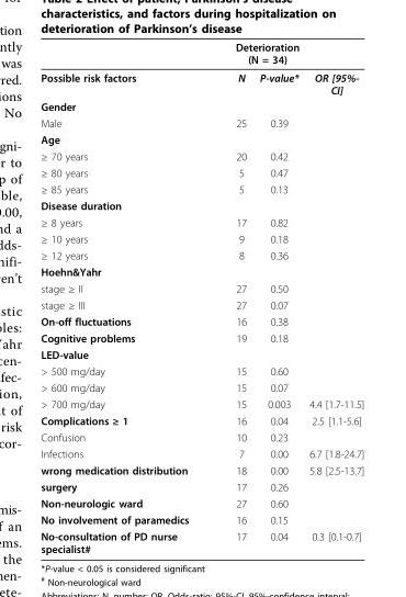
<table><thead><tr><td rowspan="2">Possible risk factors</td><td colspan="2">Deterioration (N = 34)</td><td rowspan="2">OR [95%- CI]</td></tr><tr><td>N</td><td>P-value*</td></tr></thead><tbody><tr><td colspan="4">Gender</td></tr><tr><td>Male</td><td>25</td><td>0.39</td><td></td></tr><tr><td colspan="4">Age</td></tr><tr><td>≥ 70 years</td><td>20</td><td>0.42</td><td></td></tr><tr><td>≥ 80 years</td><td>5</td><td>0.47</td><td></td></tr><tr><td>≥ 85 years</td><td>5</td><td>0.13</td><td></td></tr><tr><td colspan="4">Disease duration</td></tr><tr><td>≥ 8 years</td><td>17</td><td>0.82</td><td></td></tr><tr><td>≥ 10 years</td><td>9</td><td>0.18</td><td></td></tr><tr><td>≥ 12 years</td><td>8</td><td>0.36</td><td></td></tr><tr><td colspan="4">Hoehn&amp;Yahr</td></tr><tr><td>stage ≥ II</td><td>27</td><td>0.50</td><td></td></tr><tr><td>stage ≥ III</td><td>27</td><td>0.07</td><td></td></tr><tr><td>On-off fluctuations</td><td>16</td><td>0.38</td><td></td></tr><tr><td>Cognitive problems</td><td>19</td><td>0.18</td><td></td></tr><tr><td colspan="4">LED-value</td></tr><tr><td>&gt; 500 mg/day</td><td>15</td><td>0.60</td><td></td></tr><tr><td>&gt; 600 mg/day</td><td>15</td><td>0.07</td><td></td></tr><tr><td>&gt; 700 mg/day</td><td>15</td><td>0.003</td><td>4.4 [1.7-11.5]</td></tr><tr><td>Complications ≥ 1</td><td>16</td><td>0.04</td><td>2.5 [1.1-5.6]</td></tr><tr><td>Confusion</td><td>10</td><td>0.23</td><td></td></tr><tr><td>Infections</td><td>7</td><td>0.00</td><td>6.7 [1.8-24.7]</td></tr><tr><td>wrong medication distribution</td><td>18</td><td>0.00</td><td>5.8 [2.5-13.7]</td></tr><tr><td>surgery</td><td>17</td><td>0.26</td><td></td></tr><tr><td>Non-neurologic ward</td><td>27</td><td>0.60</td><td></td></tr><tr><td>No involvement of paramedics</td><td>16</td><td>0.15</td><td></td></tr><tr><td>No-consultation of PD nurse specialist#</td><td>17</td><td>0.04</td><td>0.3 [0.1-0.7]</td></tr></tbody></table>